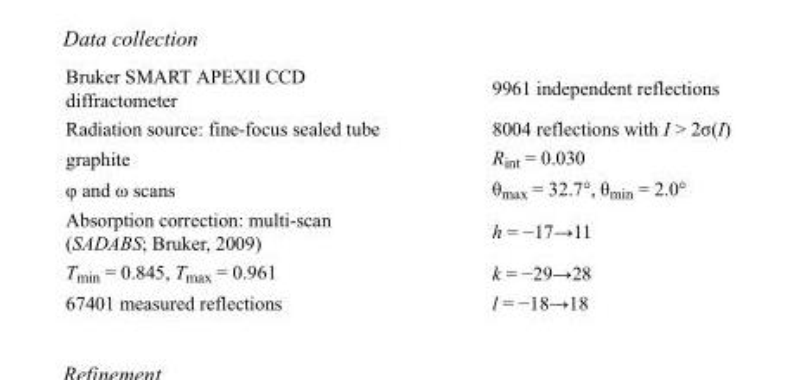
<table><tbody><tr><td>Bruker SMART APEXII CCD diffractometer</td><td>9961 independent reflections</td></tr><tr><td>Radiation source: fine-focus sealed tube</td><td>8004 reflections with I &gt; 2σ(I)</td></tr><tr><td>graphite</td><td>R<sub>int</sub> = 0.030</td></tr><tr><td>φ and ω scans</td><td>θ<sub>max</sub> = 32.7°, θ<sub>min</sub> = 2.0°</td></tr><tr><td>Absorption correction: multi-scan (SADABS; Bruker, 2009)</td><td>h = −17→11</td></tr><tr><td>T<sub>min</sub> = 0.845, T<sub>max</sub> = 0.961</td><td>k = −29→28</td></tr><tr><td>67401 measured reflections</td><td>l = −18→18</td></tr></tbody></table>